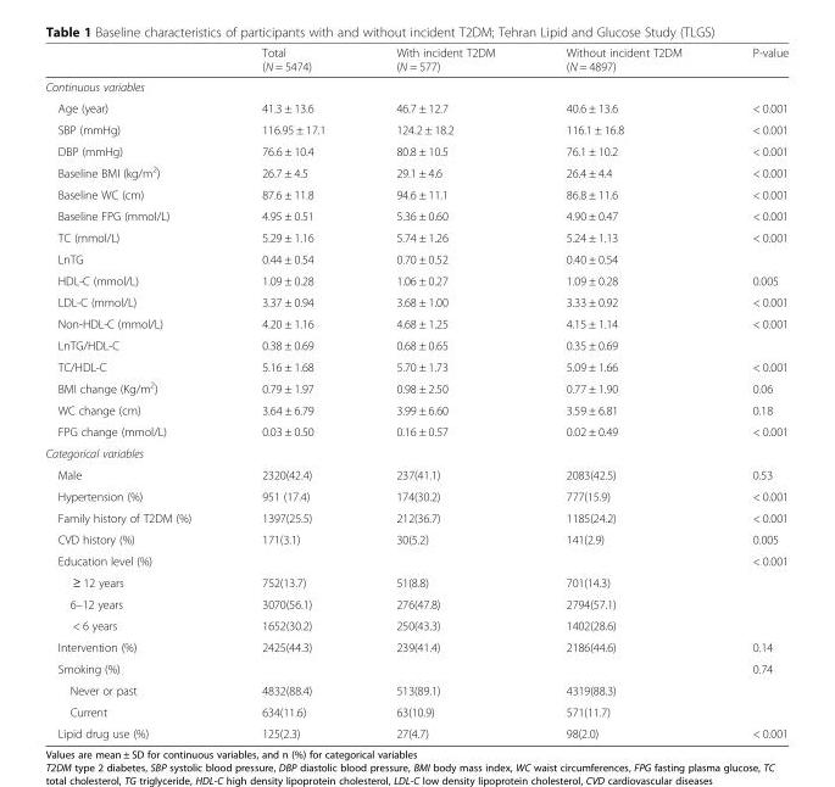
<table><thead><tr><td></td><td>Total (N = 5474)</td><td>With incident T2DM (N = 577)</td><td>Without incident T2DM (N = 4897)</td><td>P-value</td></tr></thead><tbody><tr><td colspan="5">Continuous variables</td></tr><tr><td>Age (year)</td><td>41.3 ± 13.6</td><td>46.7 ± 12.7</td><td>40.6 ± 13.6</td><td>&lt; 0.001</td></tr><tr><td>SBP (mmHg)</td><td>116.95 ± 17.1</td><td>124.2 ± 18.2</td><td>116.1 ± 16.8</td><td>&lt; 0.001</td></tr><tr><td>DBP (mmHg)</td><td>76.6 ± 10.4</td><td>80.8 ± 10.5</td><td>76.1 ± 10.2</td><td>&lt; 0.001</td></tr><tr><td>Baseline BMI (kg/m<sup>2</sup>)</td><td>26.7 ± 4.5</td><td>29.1 ± 4.6</td><td>26.4 ± 4.4</td><td>&lt; 0.001</td></tr><tr><td>Baseline WC (cm)</td><td>87.6 ± 11.8</td><td>94.6 ± 11.1</td><td>86.8 ± 11.6</td><td>&lt; 0.001</td></tr><tr><td>Baseline FPG (mmol/L)</td><td>4.95 ± 0.51</td><td>5.36 ± 0.60</td><td>4.90 ± 0.47</td><td>&lt; 0.001</td></tr><tr><td>TC (mmol/L)</td><td>5.29 ± 1.16</td><td>5.74 ± 1.26</td><td>5.24 ± 1.13</td><td>&lt; 0.001</td></tr><tr><td>LnTG</td><td>0.44 ± 0.54</td><td>0.70 ± 0.52</td><td>0.40 ± 0.54</td><td></td></tr><tr><td>HDL-C (mmol/L)</td><td>1.09 ± 0.28</td><td>1.06 ± 0.27</td><td>1.09 ± 0.28</td><td>0.005</td></tr><tr><td>LDL-C (mmol/L)</td><td>3.37 ± 0.94</td><td>3.68 ± 1.00</td><td>3.33 ± 0.92</td><td>&lt; 0.001</td></tr><tr><td>Non-HDL-C (mmol/L)</td><td>4.20 ± 1.16</td><td>4.68 ± 1.25</td><td>4.15 ± 1.14</td><td>&lt; 0.001</td></tr><tr><td>LnTG/HDL-C</td><td>0.38 ± 0.69</td><td>0.68 ± 0.65</td><td>0.35 ± 0.69</td><td></td></tr><tr><td>TC/HDL-C</td><td>5.16 ± 1.68</td><td>5.70 ± 1.73</td><td>5.09 ± 1.66</td><td>&lt; 0.001</td></tr><tr><td>BMI change (Kg/m<sup>2</sup>)</td><td>0.79 ± 1.97</td><td>0.98 ± 2.50</td><td>0.77 ± 1.90</td><td>0.06</td></tr><tr><td>WC change (cm)</td><td>3.64 ± 6.79</td><td>3.99 ± 6.60</td><td>3.59 ± 6.81</td><td>0.18</td></tr><tr><td>FPG change (mmol/L)</td><td>0.03 ± 0.50</td><td>0.16 ± 0.57</td><td>0.02 ± 0.49</td><td>&lt; 0.001</td></tr><tr><td colspan="5">Categorical variables</td></tr><tr><td>Male</td><td>2320(42.4)</td><td>237(41.1)</td><td>2083(42.5)</td><td>0.53</td></tr><tr><td>Hypertension (%)</td><td>951 (17.4)</td><td>174(30.2)</td><td>777(15.9)</td><td>&lt; 0.001</td></tr><tr><td>Family history of T2DM (%)</td><td>1397(25.5)</td><td>212(36.7)</td><td>1185(24.2)</td><td>&lt; 0.001</td></tr><tr><td>CVD history (%)</td><td>171(3.1)</td><td>30(5.2)</td><td>141(2.9)</td><td>0.005</td></tr><tr><td>Education level (%)</td><td></td><td></td><td></td><td>&lt; 0.001</td></tr><tr><td>≥ 12 years</td><td>752(13.7)</td><td>51(8.8)</td><td>701(14.3)</td><td></td></tr><tr><td>6–12 years</td><td>3070(56.1)</td><td>276(47.8)</td><td>2794(57.1)</td><td></td></tr><tr><td>&lt; 6 years</td><td>1652(30.2)</td><td>250(43.3)</td><td>1402(28.6)</td><td></td></tr><tr><td>Intervention (%)</td><td>2425(44.3)</td><td>239(41.4)</td><td>2186(44.6)</td><td>0.14</td></tr><tr><td>Smoking (%)</td><td></td><td></td><td></td><td>0.74</td></tr><tr><td>Never or past</td><td>4832(88.4)</td><td>513(89.1)</td><td>4319(88.3)</td><td></td></tr><tr><td>Current</td><td>634(11.6)</td><td>63(10.9)</td><td>571(11.7)</td><td></td></tr><tr><td>Lipid drug use (%)</td><td>125(2.3)</td><td>27(4.7)</td><td>98(2.0)</td><td>&lt; 0.001</td></tr></tbody></table>